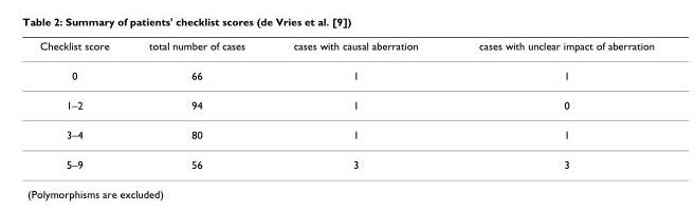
<table><thead><tr><td>Checklist score</td><td>total number of cases</td><td>cases with causal aberration</td><td>cases with unclear impact of aberration</td></tr></thead><tbody><tr><td>0</td><td>66</td><td>1</td><td>1</td></tr><tr><td>1–2</td><td>94</td><td>1</td><td>0</td></tr><tr><td>3–4</td><td>80</td><td>1</td><td>1</td></tr><tr><td>5–9</td><td>56</td><td>3</td><td>3</td></tr></tbody></table>